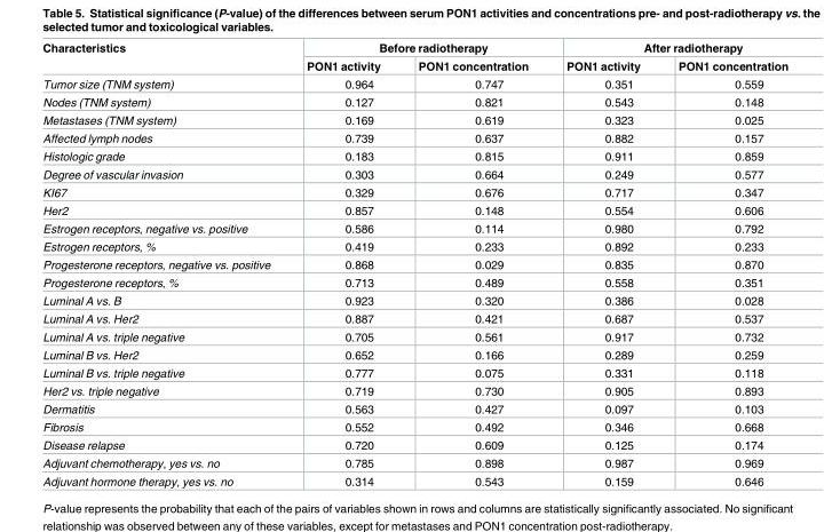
<table><thead><tr><td rowspan="2">Characteristics</td><td colspan="2">Before radiotherapy</td><td colspan="2">After radiotherapy</td></tr><tr><td>PON1 activity</td><td>PON1 concentration</td><td>PON1 activity</td><td>PON1 concentration</td></tr></thead><tbody><tr><td>Tumor size (TNM system)</td><td>0.964</td><td>0.747</td><td>0.351</td><td>0.559</td></tr><tr><td>Nodes (TNM system)</td><td>0.127</td><td>0.821</td><td>0.543</td><td>0.148</td></tr><tr><td>Metastases (TNM system)</td><td>0.169</td><td>0.619</td><td>0.323</td><td>0.025</td></tr><tr><td>Affected lymph nodes</td><td>0.739</td><td>0.637</td><td>0.882</td><td>0.157</td></tr><tr><td>Histologic grade</td><td>0.183</td><td>0.815</td><td>0.911</td><td>0.859</td></tr><tr><td>Degree of vascular invasion</td><td>0.303</td><td>0.664</td><td>0.249</td><td>0.577</td></tr><tr><td>KI67</td><td>0.329</td><td>0.676</td><td>0.717</td><td>0.347</td></tr><tr><td>Her2</td><td>0.857</td><td>0.148</td><td>0.554</td><td>0.606</td></tr><tr><td>Estrogen receptors, negative vs. positive</td><td>0.586</td><td>0.114</td><td>0.980</td><td>0.792</td></tr><tr><td>Estrogen receptors, %</td><td>0.419</td><td>0.233</td><td>0.892</td><td>0.233</td></tr><tr><td>Progesterone receptors, negative vs. positive</td><td>0.868</td><td>0.029</td><td>0.835</td><td>0.870</td></tr><tr><td>Progesterone receptors, %</td><td>0.713</td><td>0.489</td><td>0.558</td><td>0.351</td></tr><tr><td>Luminal A vs. B</td><td>0.923</td><td>0.320</td><td>0.386</td><td>0.028</td></tr><tr><td>Luminal A vs. Her2</td><td>0.887</td><td>0.421</td><td>0.687</td><td>0.537</td></tr><tr><td>Luminal A vs. triple negative</td><td>0.705</td><td>0.561</td><td>0.917</td><td>0.732</td></tr><tr><td>Luminal B vs. Her2</td><td>0.652</td><td>0.166</td><td>0.289</td><td>0.259</td></tr><tr><td>Luminal B vs. triple negative</td><td>0.777</td><td>0.075</td><td>0.331</td><td>0.118</td></tr><tr><td>Her2 vs. triple negative</td><td>0.719</td><td>0.730</td><td>0.905</td><td>0.893</td></tr><tr><td>Dermatitis</td><td>0.563</td><td>0.427</td><td>0.097</td><td>0.103</td></tr><tr><td>Fibrosis</td><td>0.552</td><td>0.492</td><td>0.346</td><td>0.668</td></tr><tr><td>Disease relapse</td><td>0.720</td><td>0.609</td><td>0.125</td><td>0.174</td></tr><tr><td>Adjuvant chemotherapy, yes vs. no</td><td>0.785</td><td>0.898</td><td>0.987</td><td>0.969</td></tr><tr><td>Adjuvant hormone therapy, yes vs. no</td><td>0.314</td><td>0.543</td><td>0.159</td><td>0.646</td></tr></tbody></table>